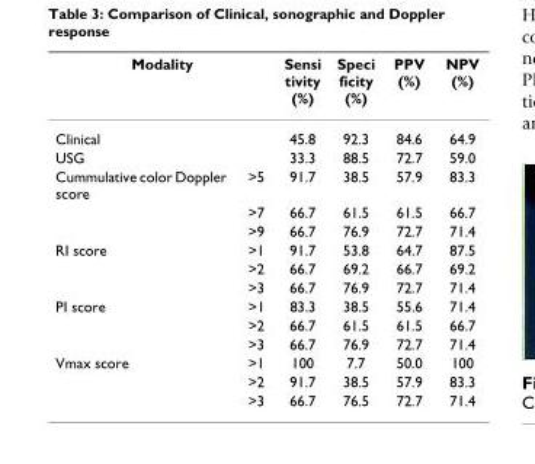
<table><thead><tr><td rowspan="3" colspan="2">Modality Clinical USG</td><td rowspan="4">Sensi tivity (%) 45.8 33.3 91.7</td><td rowspan="4">Speci ficity (%) 92.3 88.5 38.5</td><td rowspan="4">PPV (%) 84.6 72.7 57.9</td><td rowspan="4">NPV (%) 64.9 59.0 83.3</td></tr><tr></tr><tr></tr><tr><td>Cummulative color Doppler score</td><td>&gt;5</td></tr></thead><tbody><tr><td></td><td>&gt;7</td><td>66.7</td><td>61.5</td><td>61.5</td><td>66.7</td></tr><tr><td></td><td>&gt;9</td><td>66.7</td><td>76.9</td><td>72.7</td><td>71.4</td></tr><tr><td rowspan="3">RI score</td><td>&gt;1</td><td>91.7</td><td>53.8</td><td>64.7</td><td>87.5</td></tr><tr><td>&gt;2</td><td>66.7</td><td>69.2</td><td>66.7</td><td>69.2</td></tr><tr><td>&gt;3</td><td>66.7</td><td>76.9</td><td>72.7</td><td>71.4</td></tr><tr><td rowspan="3">PI score</td><td>&gt;1</td><td>83.3</td><td>38.5</td><td>55.6</td><td>71.4</td></tr><tr><td>&gt;2</td><td>66.7</td><td>61.5</td><td>61.5</td><td>66.7</td></tr><tr><td>&gt;3</td><td>66.7</td><td>76.9</td><td>72.7</td><td>71.4</td></tr><tr><td rowspan="3">Vmax score</td><td>&gt;1</td><td>100</td><td>7.7</td><td>50.0</td><td>100</td></tr><tr><td>&gt;2</td><td>91.7</td><td>38.5</td><td>57.9</td><td>83.3</td></tr><tr><td>&gt;3</td><td>66.7</td><td>76.5</td><td>72.7</td><td>71.4</td></tr></tbody></table>